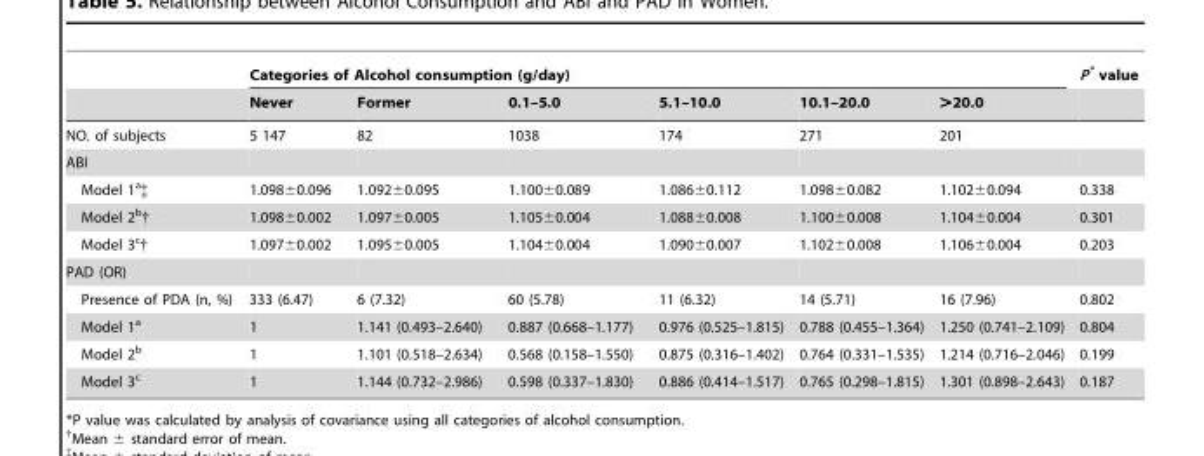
<table><thead><tr><td rowspan="2"></td><td colspan="6">Categories of Alcohol consumption (g/day)</td><td rowspan="2">P* value</td></tr><tr><td>Never</td><td>Former</td><td>0.1–5.0</td><td>5.1–10.0</td><td>10.1–20.0</td><td>&gt;20.0</td></tr></thead><tbody><tr><td>NO. of subjects</td><td>5 147</td><td>82</td><td>1038</td><td>174</td><td>271</td><td>201</td><td></td></tr><tr><td colspan="8">ABI</td></tr><tr><td>Model 1<sup>a</sup>‡</td><td>1.098±0.096</td><td>1.092±0.095</td><td>1.100±0.089</td><td>1.086±0.112</td><td>1.098±0.082</td><td>1.102±0.094</td><td>0.338</td></tr><tr><td>Model 2<sup>b</sup>†</td><td>1.098±0.002</td><td>1.097±0.005</td><td>1.105±0.004</td><td>1.088±0.008</td><td>1.100±0.008</td><td>1.104±0.004</td><td>0.301</td></tr><tr><td>Model 3<sup>c</sup>†</td><td>1.097±0.002</td><td>1.095±0.005</td><td>1.104±0.004</td><td>1.090±0.007</td><td>1.102±0.008</td><td>1.106±0.004</td><td>0.203</td></tr><tr><td colspan="8">PAD (OR)</td></tr><tr><td>Presence of PDA (n, %)</td><td>333 (6.47)</td><td>6 (7.32)</td><td>60 (5.78)</td><td>11 (6.32)</td><td>14 (5.71)</td><td>16 (7.96)</td><td>0.802</td></tr><tr><td>Model 1<sup>a</sup></td><td>1</td><td>1.141 (0.493–2.640)</td><td>0.887 (0.668–1.177)</td><td>0.976 (0.525–1.815)</td><td>0.788 (0.455–1.364)</td><td>1.250 (0.741–2.109)</td><td>0.804</td></tr><tr><td>Model 2<sup>b</sup></td><td>1</td><td>1.101 (0.518–2.634)</td><td>0.568 (0.158–1.550)</td><td>0.875 (0.316–1.402)</td><td>0.764 (0.331–1.535)</td><td>1.214 (0.716–2.046)</td><td>0.199</td></tr><tr><td>Model 3<sup>c</sup></td><td>1</td><td>1.144 (0.732–2.986)</td><td>0.598 (0.337–1.830)</td><td>0.886 (0.414–1.517)</td><td>0.765 (0.298–1.815)</td><td>1.301 (0.898–2.643)</td><td>0.187</td></tr></tbody></table>